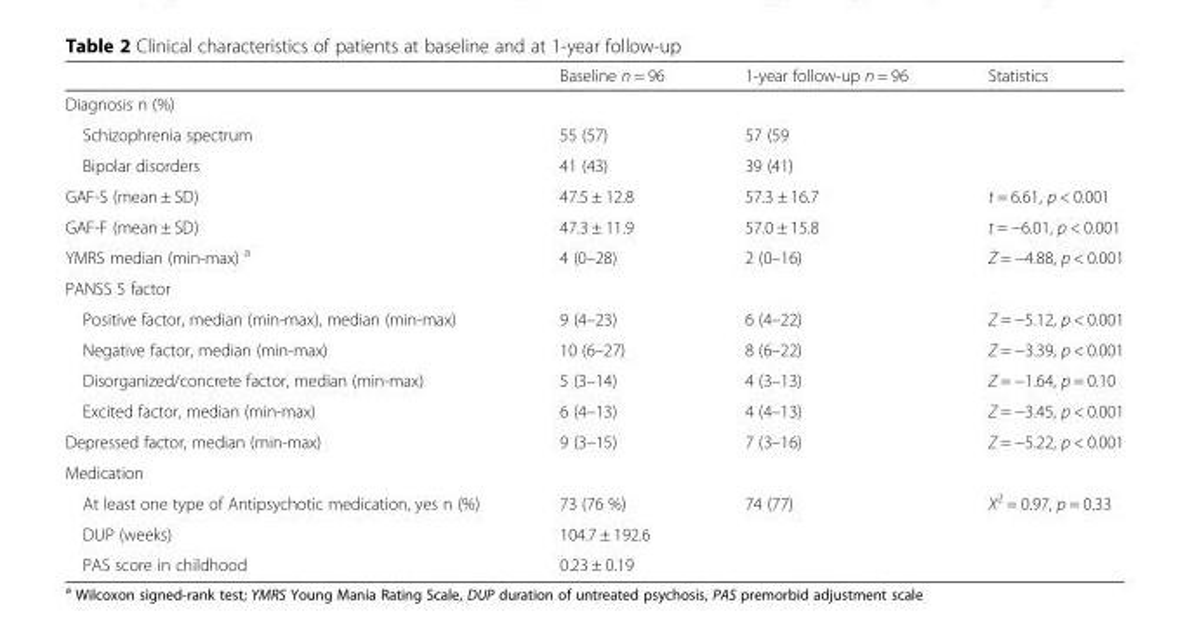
<table><thead><tr><td></td><td>Baseline n = 96</td><td>1-year follow-up n = 96</td><td>Statistics</td></tr></thead><tbody><tr><td colspan="4">Diagnosis n (%)</td></tr><tr><td>Schizophrenia spectrum</td><td>55 (57)</td><td>57 (59</td><td></td></tr><tr><td>Bipolar disorders</td><td>41 (43)</td><td>39 (41)</td><td></td></tr><tr><td>GAF-S (mean ± SD)</td><td>47.5 ± 12.8</td><td>57.3 ± 16.7</td><td>t = 6.61, p &lt; 0.001</td></tr><tr><td>GAF-F (mean ± SD)</td><td>47.3 ± 11.9</td><td>57.0 ± 15.8</td><td>t = −6.01, p &lt; 0.001</td></tr><tr><td>YMRS median (min-max) <sup>a</sup></td><td>4 (0–28)</td><td>2 (0–16)</td><td>Z = −4.88, p &lt; 0.001</td></tr><tr><td colspan="4">PANSS 5 factor</td></tr><tr><td>Positive factor, median (min-max), median (min-max)</td><td>9 (4–23)</td><td>6 (4–22)</td><td>Z = −5.12, p &lt; 0.001</td></tr><tr><td>Negative factor, median (min-max)</td><td>10 (6–27)</td><td>8 (6–22)</td><td>Z = −3.39, p &lt; 0.001</td></tr><tr><td>Disorganized/concrete factor, median (min-max)</td><td>5 (3–14)</td><td>4 (3–13)</td><td>Z = −1.64, p = 0.10</td></tr><tr><td>Excited factor, median (min-max)</td><td>6 (4–13)</td><td>4 (4–13)</td><td>Z = −3.45, p &lt; 0.001</td></tr><tr><td>Depressed factor, median (min-max)</td><td>9 (3–15)</td><td>7 (3–16)</td><td>Z = −5.22, p &lt; 0.001</td></tr><tr><td colspan="4">Medication</td></tr><tr><td>At least one type of Antipsychotic medication, yes n (%)</td><td>73 (76 %)</td><td>74 (77)</td><td>X<sup>2</sup> = 0.97, p = 0.33</td></tr><tr><td>DUP (weeks)</td><td>104.7 ± 192.6</td><td></td><td></td></tr><tr><td>PAS score in childhood</td><td>0.23 ± 0.19</td><td></td><td></td></tr></tbody></table>